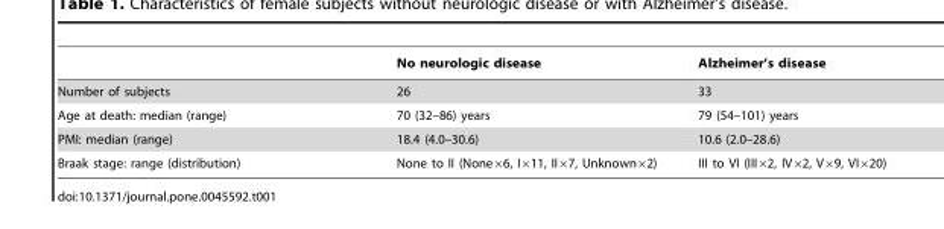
<table><thead><tr><td></td><td>No neurologic disease</td><td>Alzheimer’s disease</td></tr></thead><tbody><tr><td>Number of subjects</td><td>26</td><td>33</td></tr><tr><td>Age at death: median (range)</td><td>70 (32–86) years</td><td>79 (54–101) years</td></tr><tr><td>PMI: median (range)</td><td>18.4 (4.0–30.6)</td><td>10.6 (2.0–28.6)</td></tr><tr><td>Braak stage: range (distribution)</td><td>None to II (None×6, I×11, II×7, Unknown×2)</td><td>III to VI (III×2, IV×2, V×9, VI×20)</td></tr></tbody></table>